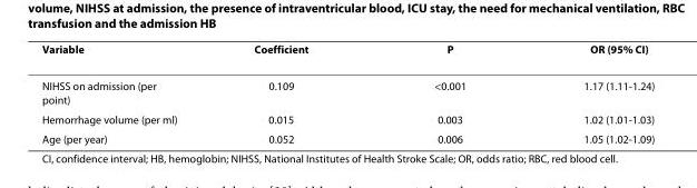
<table><thead><tr><td>Variable</td><td>Coefficient</td><td>P</td><td>OR (95% CI)</td></tr></thead><tbody><tr><td>NIHSS on admission (per point)</td><td>0.109</td><td>&lt;0.001</td><td>1.17 (1.11-1.24)</td></tr><tr><td>Hemorrhage volume (per ml)</td><td>0.015</td><td>0.003</td><td>1.02 (1.01-1.03)</td></tr><tr><td>Age (per year)</td><td>0.052</td><td>0.006</td><td>1.05 (1.02-1.09)</td></tr></tbody></table>